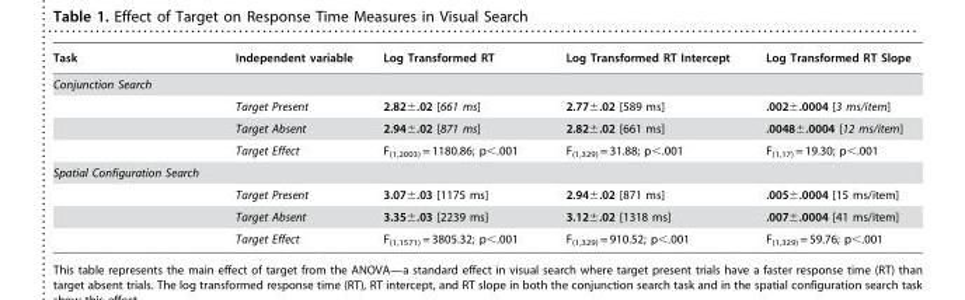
<table><thead><tr><td>Task</td><td>Independent variable</td><td>Log Transformed RT</td><td>Log Transformed RT Intercept</td><td>Log Transformed RT Slope</td></tr></thead><tbody><tr><td colspan="5">Conjunction Search</td></tr><tr><td></td><td>Target Present</td><td>2.82±.02 [661 ms]</td><td>2.77±.02 [589 ms]</td><td>.002±.0004 [3 ms/item]</td></tr><tr><td></td><td>Target Absent</td><td>2.94±.02 [871 ms]</td><td>2.82±.02 [661 ms]</td><td>.0048±.0004 [12 ms/item]</td></tr><tr><td></td><td>Target Effect</td><td>F<sub>(1,2003)</sub> = 1180.86; p&lt;.001</td><td>F<sub>(1,329)</sub> = 31.88; p&lt;.001</td><td>F<sub>(1,17)</sub> = 19.30; p&lt;.001</td></tr><tr><td colspan="5">Spatial Configuration Search</td></tr><tr><td></td><td>Target Present</td><td>3.07±.03 [1175 ms]</td><td>2.94±.02 [871 ms]</td><td>.005±.0004 [15 ms/item]</td></tr><tr><td></td><td>Target Absent</td><td>3.35±.03 [2239 ms]</td><td>3.12±.02 [1318 ms]</td><td>.007±.0004 [41 ms/item]</td></tr><tr><td></td><td>Target Effect</td><td>F<sub>(1,1571)</sub> = 3805.32; p&lt;.001</td><td>F<sub>(1,329)</sub> = 910.52; p&lt;.001</td><td>F<sub>(1,329)</sub> = 59.76; p&lt;.001</td></tr></tbody></table>